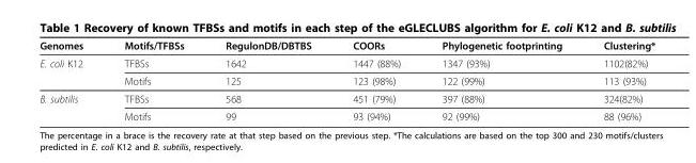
<table><thead><tr><td>Genomes</td><td>Motifs/TFBSs</td><td>RegulonDB/DBTBS</td><td>COORs</td><td>Phylogenetic footprinting</td><td>Clustering*</td></tr></thead><tbody><tr><td rowspan="2">E. coli K12</td><td>TFBSs</td><td>1642</td><td>1447 (88%)</td><td>1347 (93%)</td><td>1102(82%)</td></tr><tr><td>Motifs</td><td>125</td><td>123 (98%)</td><td>122 (99%)</td><td>113 (93%)</td></tr><tr><td rowspan="2">B. subtilis</td><td>TFBSs</td><td>568</td><td>451 (79%)</td><td>397 (88%)</td><td>324(82%)</td></tr><tr><td>Motifs</td><td>99</td><td>93 (94%)</td><td>92 (99%)</td><td>88 (96%)</td></tr></tbody></table>